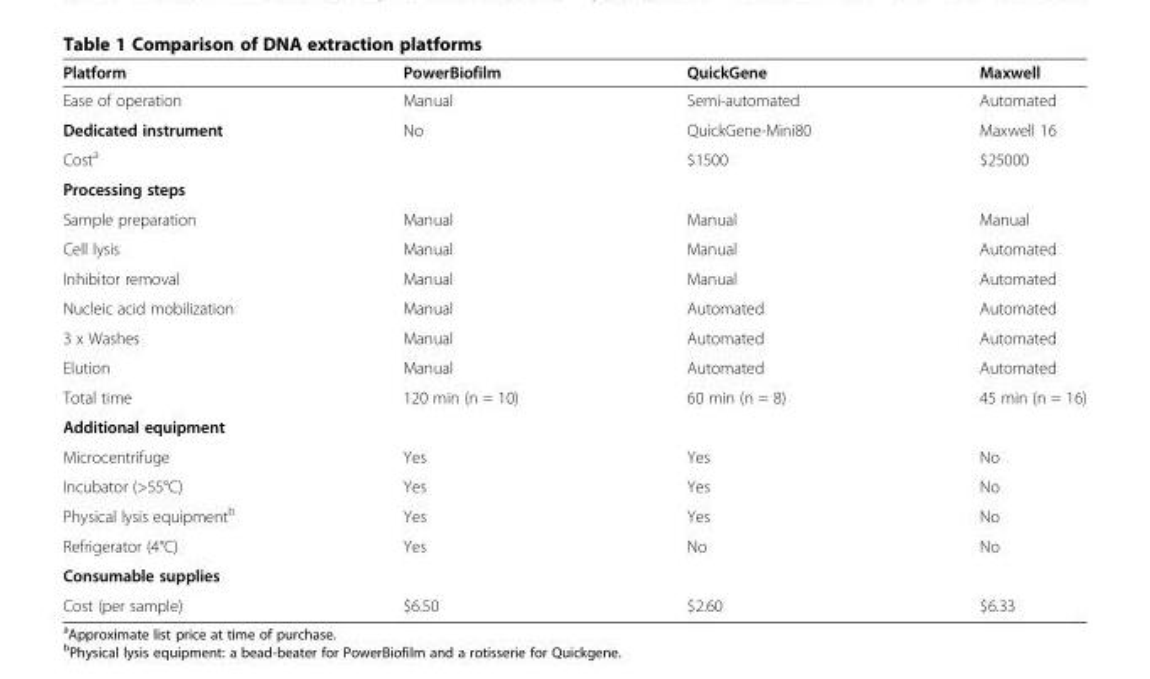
<table><thead><tr><td>Platform</td><td>PowerBiofilm</td><td>QuickGene</td><td>Maxwell</td></tr></thead><tbody><tr><td>Ease of operation</td><td>Manual</td><td>Semi-automated</td><td>Automated</td></tr><tr><td>Dedicated instrument</td><td>No</td><td>QuickGene-Mini80</td><td>Maxwell 16</td></tr><tr><td>Cost<sup>a</sup></td><td></td><td>$1500</td><td>$25000</td></tr><tr><td colspan="4">Processing steps</td></tr><tr><td>Sample preparation</td><td>Manual</td><td>Manual</td><td>Manual</td></tr><tr><td>Cell lysis</td><td>Manual</td><td>Manual</td><td>Automated</td></tr><tr><td>Inhibitor removal</td><td>Manual</td><td>Manual</td><td>Automated</td></tr><tr><td>Nucleic acid mobilization</td><td>Manual</td><td>Automated</td><td>Automated</td></tr><tr><td>3 x Washes</td><td>Manual</td><td>Automated</td><td>Automated</td></tr><tr><td>Elution</td><td>Manual</td><td>Automated</td><td>Automated</td></tr><tr><td>Total time</td><td>120 min (n = 10)</td><td>60 min (n = 8)</td><td>45 min (n = 16)</td></tr><tr><td colspan="4">Additional equipment</td></tr><tr><td>Microcentrifuge</td><td>Yes</td><td>Yes</td><td>No</td></tr><tr><td>Incubator (&gt;55°C)</td><td>Yes</td><td>Yes</td><td>No</td></tr><tr><td>Physical lysis equipment<sup>b</sup></td><td>Yes</td><td>Yes</td><td>No</td></tr><tr><td>Refrigerator (4°C)</td><td>Yes</td><td>No</td><td>No</td></tr><tr><td colspan="4">Consumable supplies</td></tr><tr><td>Cost (per sample)</td><td>$6.50</td><td>$2.60</td><td>$6.33</td></tr></tbody></table>